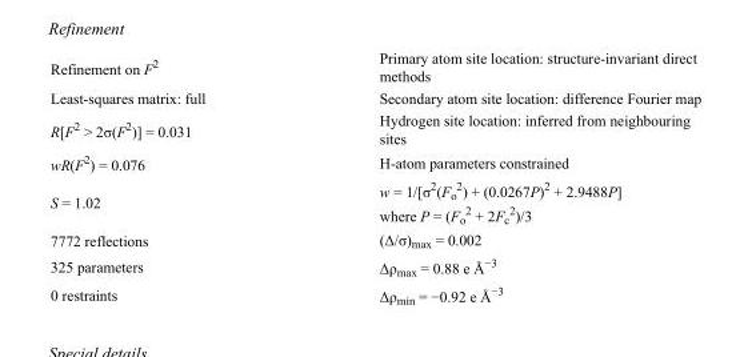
<table><tbody><tr><td>Refinement on F<sup>2</sup></td><td>Primary atom site location: structure-invariant direct methods</td></tr><tr><td>Least-squares matrix: full</td><td>Secondary atom site location: difference Fourier map</td></tr><tr><td>R[F<sup>2</sup> &gt; 2σ(F<sup>2</sup>)] = 0.031</td><td>Hydrogen site location: inferred from neighbouring sites</td></tr><tr><td>wR(F<sup>2</sup>) = 0.076</td><td>H-atom parameters constrained</td></tr><tr><td>S = 1.02</td><td>w = 1/[σ<sup>2</sup>(F<sub>o</sub> <sup>2</sup>) + (0.0267P)<sup>2</sup> + 2.9488P] where P = (F<sub>o</sub> <sup>2</sup> + 2F<sub>c</sub> <sup>2</sup>)/3</td></tr><tr><td>7772 reflections</td><td>(Δ/σ)<sub>max</sub> = 0.002</td></tr><tr><td>325 parameters</td><td>Δρ<sub>max</sub> = 0.88 e Å<sup>−3</sup></td></tr><tr><td>0 restraints</td><td>Δρ<sub>min</sub> = −0.92 e Å<sup>−3</sup></td></tr></tbody></table>